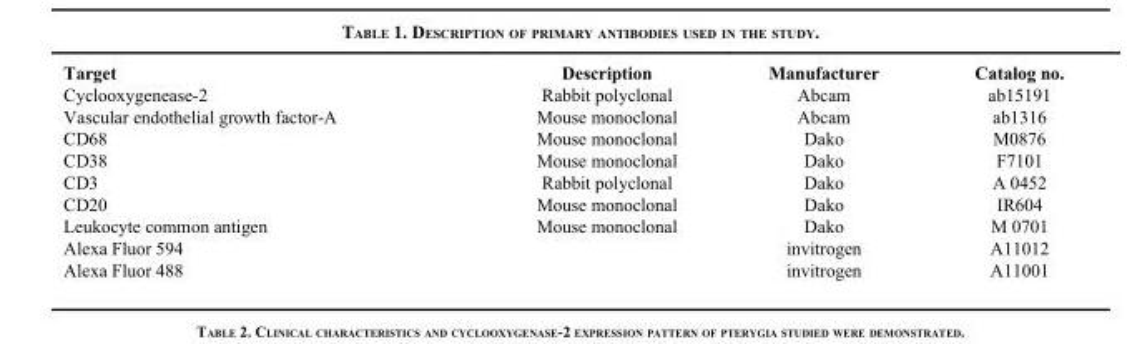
<table><thead><tr><td>Target</td><td>Description</td><td>Manufacturer</td><td>Catalog no.</td></tr></thead><tbody><tr><td>Cyclooxygenease-2</td><td>Rabbit polyclonal</td><td>Abcam</td><td>ab15191</td></tr><tr><td>Vascular endothelial growth factor-A</td><td>Mouse monoclonal</td><td>Abcam</td><td>ab1316</td></tr><tr><td>CD68</td><td>Mouse monoclonal</td><td>Dako</td><td>M0876</td></tr><tr><td>CD38</td><td>Mouse monoclonal</td><td>Dako</td><td>F7101</td></tr><tr><td>CD3</td><td>Rabbit polyclonal</td><td>Dako</td><td>A 0452</td></tr><tr><td>CD20</td><td>Mouse monoclonal</td><td>Dako</td><td>IR604</td></tr><tr><td>Leukocyte common antigen</td><td>Mouse monoclonal</td><td>Dako</td><td>M 0701</td></tr><tr><td>Alexa Fluor 594</td><td></td><td>invitrogen</td><td>A11012</td></tr><tr><td>Alexa Fluor 488</td><td></td><td>invitrogen</td><td>A11001</td></tr></tbody></table>